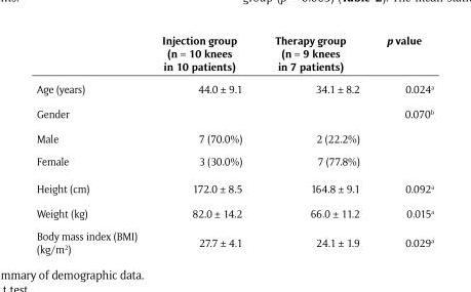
<table><thead><tr><td></td><td>Injection group (n = 10 knees in 10 patients)</td><td>Therapy group (n = 9 knees in 7 patients)</td><td>p value</td></tr></thead><tbody><tr><td>Age (years)</td><td>44.0 ± 9.1</td><td>34.1 ± 8.2</td><td>0.024<sup>a</sup></td></tr><tr><td>Gender</td><td></td><td></td><td>0.070<sup>b</sup></td></tr><tr><td>Male</td><td>7 (70.0%)</td><td>2 (22.2%)</td><td></td></tr><tr><td>Female</td><td>3 (30.0%)</td><td>7 (77.8%)</td><td></td></tr><tr><td>Height (cm)</td><td>172.0 ± 8.5</td><td>164.8 ± 9.1</td><td>0.092<sup>a</sup></td></tr><tr><td>Weight (kg)</td><td>82.0 ± 14.2</td><td>66.0 ± 11.2</td><td>0.015<sup>a</sup></td></tr><tr><td>Body mass index (BMI) (kg/m<sup>2</sup>)</td><td>27.7 ± 4.1</td><td>24.1 ± 1.9</td><td>0.029<sup>a</sup></td></tr></tbody></table>